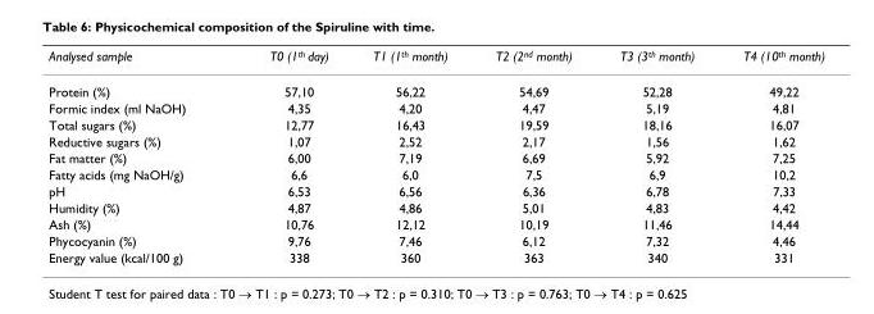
<table><thead><tr><td>Analysed sample</td><td>T0 (1<sup>th</sup> day)</td><td>T1 (1<sup>th</sup> month)</td><td>T2 (2<sup>nd</sup> month)</td><td>T3 (3<sup>th</sup> month)</td><td>T4 (10<sup>th</sup> month)</td></tr></thead><tbody><tr><td>Protein (%)</td><td>57,10</td><td>56,22</td><td>54,69</td><td>52,28</td><td>49,22</td></tr><tr><td>Formic index (ml NaOH)</td><td>4,35</td><td>4,20</td><td>4,47</td><td>5,19</td><td>4,81</td></tr><tr><td>Total sugars (%)</td><td>12,77</td><td>16,43</td><td>19,59</td><td>18,16</td><td>16,07</td></tr><tr><td>Reductive sugars (%)</td><td>1,07</td><td>2,52</td><td>2,17</td><td>1,56</td><td>1,62</td></tr><tr><td>Fat matter (%)</td><td>6,00</td><td>7,19</td><td>6,69</td><td>5,92</td><td>7,25</td></tr><tr><td>Fatty acids (mg NaOH/g)</td><td>6,6</td><td>6,0</td><td>7,5</td><td>6,9</td><td>10,2</td></tr><tr><td>pH</td><td>6,53</td><td>6,56</td><td>6,36</td><td>6,78</td><td>7,33</td></tr><tr><td>Humidity (%)</td><td>4,87</td><td>4,86</td><td>5,01</td><td>4,83</td><td>4,42</td></tr><tr><td>Ash (%)</td><td>10,76</td><td>12,12</td><td>10,19</td><td>11,46</td><td>14,44</td></tr><tr><td>Phycocyanin (%)</td><td>9,76</td><td>7,46</td><td>6,12</td><td>7,32</td><td>4,46</td></tr><tr><td>Energy value (kcal/100 g)</td><td>338</td><td>360</td><td>363</td><td>340</td><td>331</td></tr></tbody></table>